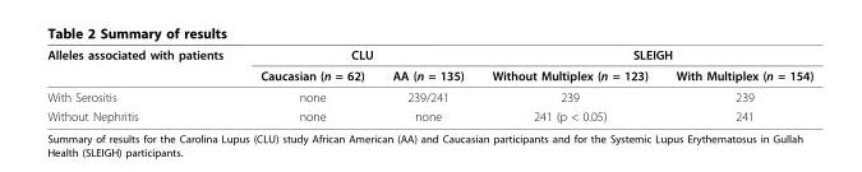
<table><thead><tr><td rowspan="2">Alleles associated with patients</td><td colspan="2">CLU</td><td colspan="2">SLEIGH</td></tr><tr><td>Caucasian (n = 62)</td><td>AA (n = 135)</td><td>Without Multiplex (n = 123)</td><td>With Multiplex (n = 154)</td></tr></thead><tbody><tr><td>With Serositis</td><td>none</td><td>239/241</td><td>239</td><td>239</td></tr><tr><td>Without Nephritis</td><td>none</td><td>none</td><td>241 (p &lt; 0.05)</td><td>241</td></tr></tbody></table>